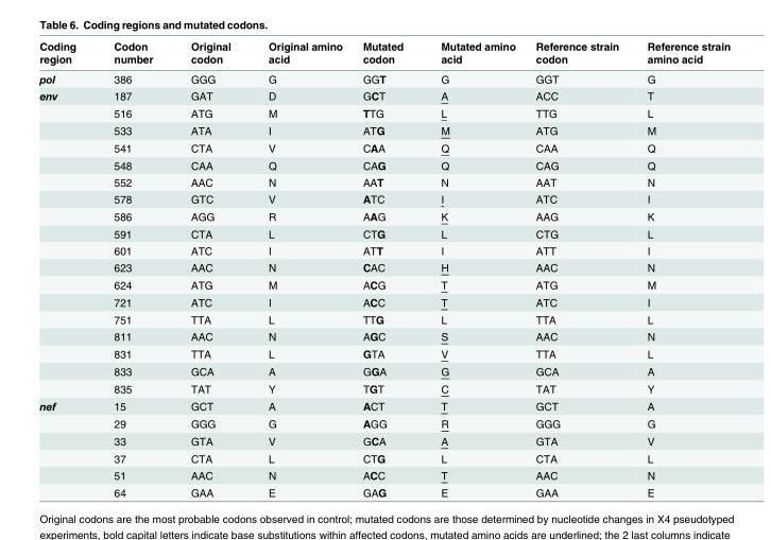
<table><thead><tr><td>Coding region</td><td>Codon number</td><td>Original codon</td><td>Original amino acid</td><td>Mutated codon</td><td>Mutated amino acid</td><td>Reference strain codon</td><td>Reference strain amino acid</td></tr></thead><tbody><tr><td>pol</td><td>386</td><td>GGG</td><td>G</td><td>GGT</td><td>G</td><td>GGT</td><td>G</td></tr><tr><td rowspan="18">env</td><td>187</td><td>GAT</td><td>D</td><td>GCT</td><td>A</td><td>ACC</td><td>T</td></tr><tr><td>516</td><td>ATG</td><td>M</td><td>TTG</td><td>L</td><td>TTG</td><td>L</td></tr><tr><td>533</td><td>ATA</td><td>I</td><td>ATG</td><td>M</td><td>ATG</td><td>M</td></tr><tr><td>541</td><td>CTA</td><td>V</td><td>CAA</td><td>Q</td><td>CAA</td><td>Q</td></tr><tr><td>548</td><td>CAA</td><td>Q</td><td>CAG</td><td>Q</td><td>CAG</td><td>Q</td></tr><tr><td>552</td><td>AAC</td><td>N</td><td>AAT</td><td>N</td><td>AAT</td><td>N</td></tr><tr><td>578</td><td>GTC</td><td>V</td><td>ATC</td><td>I</td><td>ATC</td><td>I</td></tr><tr><td>586</td><td>AGG</td><td>R</td><td>AAG</td><td>K</td><td>AAG</td><td>K</td></tr><tr><td>591</td><td>CTA</td><td>L</td><td>CTG</td><td>L</td><td>CTG</td><td>L</td></tr><tr><td>601</td><td>ATC</td><td>I</td><td>ATT</td><td>I</td><td>ATT</td><td>I</td></tr><tr><td>623</td><td>AAC</td><td>N</td><td>CAC</td><td>H</td><td>AAC</td><td>N</td></tr><tr><td>624</td><td>ATG</td><td>M</td><td>ACG</td><td>T</td><td>ATG</td><td>M</td></tr><tr><td>721</td><td>ATC</td><td>I</td><td>ACC</td><td>T</td><td>ATC</td><td>I</td></tr><tr><td>751</td><td>TTA</td><td>L</td><td>TTG</td><td>L</td><td>TTA</td><td>L</td></tr><tr><td>811</td><td>AAC</td><td>N</td><td>AGC</td><td>S</td><td>AAC</td><td>N</td></tr><tr><td>831</td><td>TTA</td><td>L</td><td>GTA</td><td>V</td><td>TTA</td><td>L</td></tr><tr><td>833</td><td>GCA</td><td>A</td><td>GGA</td><td>G</td><td>GCA</td><td>A</td></tr><tr><td>835</td><td>TAT</td><td>Y</td><td>TGT</td><td>C</td><td>TAT</td><td>Y</td></tr><tr><td rowspan="6">nef</td><td>15</td><td>GCT</td><td>A</td><td>ACT</td><td>T</td><td>GCT</td><td>A</td></tr><tr><td>29</td><td>GGG</td><td>G</td><td>AGG</td><td>R</td><td>GGG</td><td>G</td></tr><tr><td>33</td><td>GTA</td><td>V</td><td>GCA</td><td>A</td><td>GTA</td><td>V</td></tr><tr><td>37</td><td>CTA</td><td>L</td><td>CTG</td><td>L</td><td>CTA</td><td>L</td></tr><tr><td>51</td><td>AAC</td><td>N</td><td>ACC</td><td>T</td><td>AAC</td><td>N</td></tr><tr><td>64</td><td>GAA</td><td>E</td><td>GAG</td><td>E</td><td>GAA</td><td>E</td></tr></tbody></table>